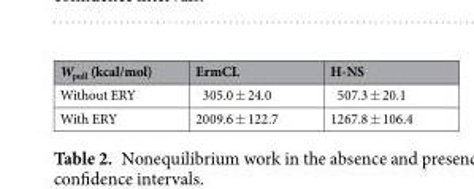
<table><thead><tr><td>W<sub>pull</sub> (kcal/mol)</td><td>ErmCL</td><td>H-NS</td></tr></thead><tbody><tr><td>Without ERY</td><td>305.0 ± 24.0</td><td>507.3 ± 20.1</td></tr><tr><td>With ERY</td><td>2009.6 ± 122.7</td><td>1267.8 ± 106.4</td></tr></tbody></table>